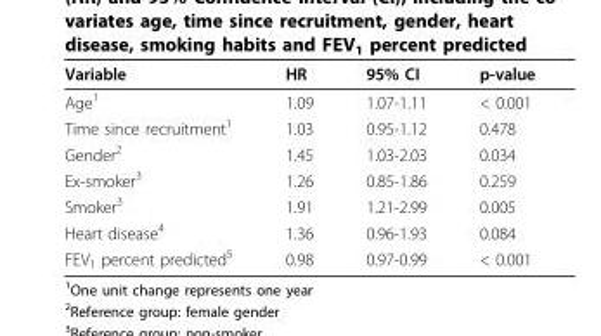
<table><thead><tr><td>Variable</td><td>HR</td><td>95% CI</td><td>p-value</td></tr></thead><tbody><tr><td>Age<sup>1</sup></td><td>1.09</td><td>1.07-1.11</td><td>&lt; 0.001</td></tr><tr><td>Time since recruitment<sup>1</sup></td><td>1.03</td><td>0.95-1.12</td><td>0.478</td></tr><tr><td>Gender<sup>2</sup></td><td>1.45</td><td>1.03-2.03</td><td>0.034</td></tr><tr><td>Ex-smoker<sup>3</sup></td><td>1.26</td><td>0.85-1.86</td><td>0.259</td></tr><tr><td>Smoker<sup>3</sup></td><td>1.91</td><td>1.21-2.99</td><td>0.005</td></tr><tr><td>Heart disease<sup>4</sup></td><td>1.36</td><td>0.96-1.93</td><td>0.084</td></tr><tr><td>FEV<sub>1</sub> percent predicted<sup>5</sup></td><td>0.98</td><td>0.97-0.99</td><td>&lt; 0.001</td></tr></tbody></table>